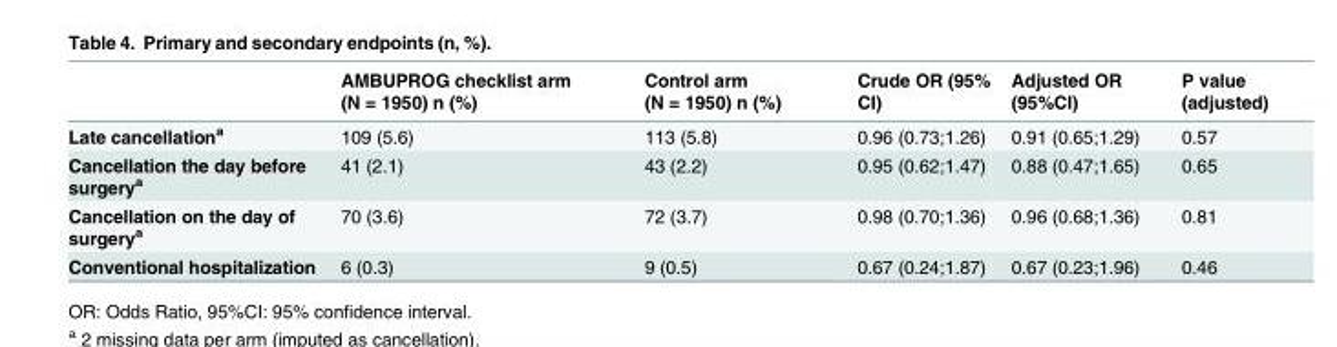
<table><thead><tr><td></td><td>AMBUPROG checklist arm (N = 1950) n (%)</td><td>Control arm (N = 1950) n (%)</td><td>Crude OR (95% CI)</td><td>Adjusted OR (95%CI)</td><td>P value (adjusted)</td></tr></thead><tbody><tr><td>Late cancellation<sup>a</sup></td><td>109 (5.6)</td><td>113 (5.8)</td><td>0.96 (0.73;1.26)</td><td>0.91 (0.65;1.29)</td><td>0.57</td></tr><tr><td>Cancellation the day before surgery<sup>a</sup></td><td>41 (2.1)</td><td>43 (2.2)</td><td>0.95 (0.62;1.47)</td><td>0.88 (0.47;1.65)</td><td>0.65</td></tr><tr><td>Cancellation on the day of surgery<sup>a</sup></td><td>70 (3.6)</td><td>72 (3.7)</td><td>0.98 (0.70;1.36)</td><td>0.96 (0.68;1.36)</td><td>0.81</td></tr><tr><td>Conventional hospitalization</td><td>6 (0.3)</td><td>9 (0.5)</td><td>0.67 (0.24;1.87)</td><td>0.67 (0.23;1.96)</td><td>0.46</td></tr></tbody></table>